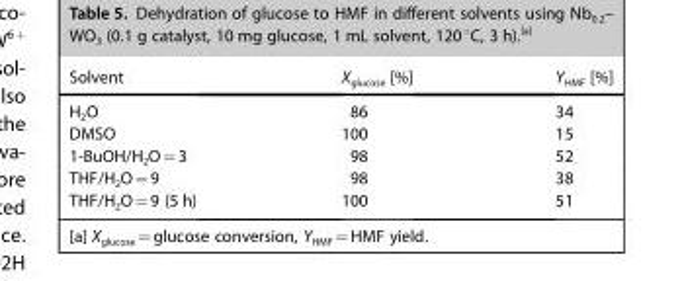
<table><thead><tr><td>Solvent</td><td>X<sub>glucose</sub> [%]</td><td>Y<sub>HMF</sub> [%]</td></tr></thead><tbody><tr><td>H<sub>2</sub>O</td><td>86</td><td>34</td></tr><tr><td>DMSO</td><td>100</td><td>15</td></tr><tr><td>1-BuOH/H<sub>2</sub>O=3</td><td>98</td><td>52</td></tr><tr><td>THF/H<sub>2</sub>O=9</td><td>98</td><td>38</td></tr><tr><td>THF/H<sub>2</sub>O=9 (5 h)</td><td>100</td><td>51</td></tr></tbody></table>